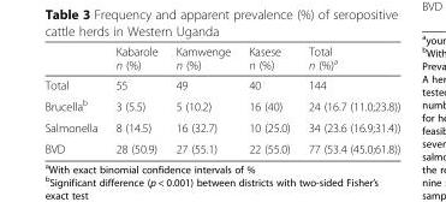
<table><thead><tr><td></td><td>Kabarole n (%)</td><td>Kamwenge n (%)</td><td>Kasese n (%)</td><td>Total n (%)<sup>a</sup></td></tr></thead><tbody><tr><td>Total</td><td>55</td><td>49</td><td>40</td><td>144</td></tr><tr><td>Brucella<sup>b</sup></td><td>3 (5.5)</td><td>5 (10.2)</td><td>16 (40)</td><td>24 (16.7 (11.0;23.8))</td></tr><tr><td>Salmonella</td><td>8 (14.5)</td><td>16 (32.7)</td><td>10 (25.0)</td><td>34 (23.6 (16.9;31.4))</td></tr><tr><td>BVD</td><td>28 (50.9)</td><td>27 (55.1)</td><td>22 (55.0)</td><td>77 (53.4 (45.0;61.8))</td></tr></tbody></table>